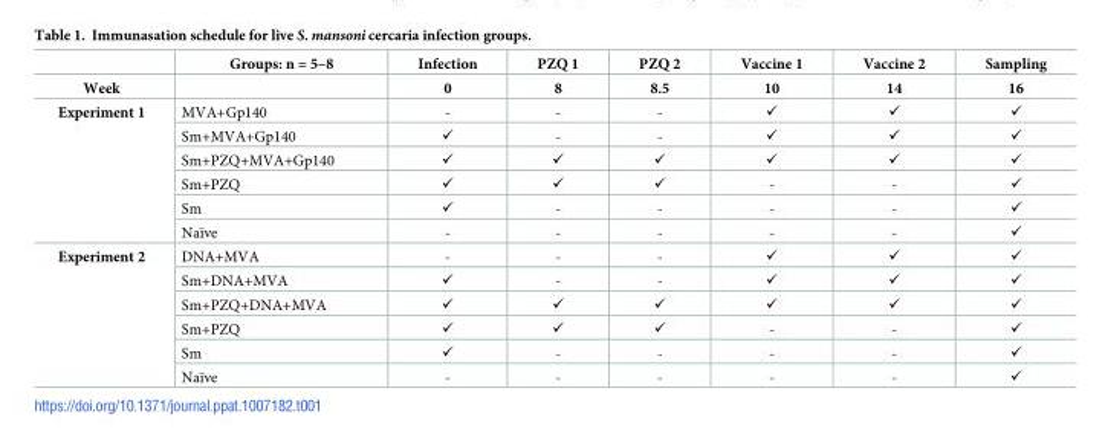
<table><thead><tr><td rowspan="2">Week</td><td rowspan="2">Groups: n = 5–8</td><td rowspan="2">Infection 0</td><td rowspan="2">PZQ 1 8</td><td rowspan="2">PZQ 2 8.5</td><td rowspan="2">Vaccine 1 10</td><td rowspan="2">Vaccine 2 14</td><td rowspan="2">Sampling 16</td></tr><tr></tr></thead><tbody><tr><td rowspan="6">Experiment 1</td><td>MVA+Gp140</td><td>-</td><td>-</td><td>-</td><td>✓</td><td>✓</td><td>✓</td></tr><tr><td>Sm+MVA+Gp140</td><td>✓</td><td>-</td><td>-</td><td>✓</td><td>✓</td><td>✓</td></tr><tr><td>Sm+PZQ+MVA+Gp140</td><td>✓</td><td>✓</td><td>✓</td><td>✓</td><td>✓</td><td>✓</td></tr><tr><td>Sm+PZQ</td><td>✓</td><td>✓</td><td>✓</td><td>-</td><td>-</td><td>✓</td></tr><tr><td>Sm</td><td>✓</td><td>-</td><td>-</td><td>-</td><td>-</td><td>✓</td></tr><tr><td>Naïve</td><td>-</td><td>-</td><td>-</td><td>-</td><td>-</td><td>✓</td></tr><tr><td rowspan="6">Experiment 2</td><td>DNA+MVA</td><td>-</td><td>-</td><td>-</td><td>✓</td><td>✓</td><td>✓</td></tr><tr><td>Sm+DNA+MVA</td><td>✓</td><td>-</td><td>-</td><td>✓</td><td>✓</td><td>✓</td></tr><tr><td>Sm+PZQ+DNA+MVA</td><td>✓</td><td>✓</td><td>✓</td><td>✓</td><td>✓</td><td>✓</td></tr><tr><td>Sm+PZQ</td><td>✓</td><td>✓</td><td>✓</td><td>-</td><td>-</td><td>✓</td></tr><tr><td>Sm</td><td>✓</td><td>-</td><td>-</td><td>-</td><td>-</td><td>✓</td></tr><tr><td>Naïve</td><td>-</td><td>-</td><td>-</td><td>-</td><td>-</td><td>✓</td></tr></tbody></table>